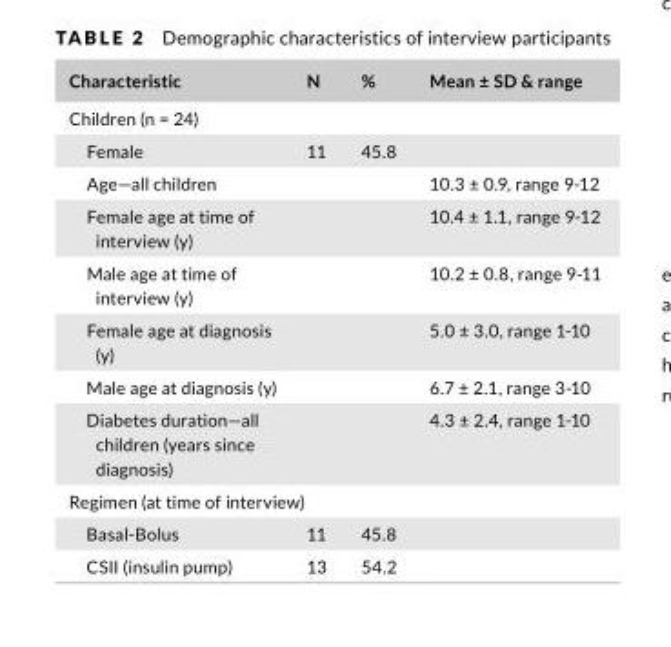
<table><thead><tr><td>Characteristic</td><td>N</td><td>%</td><td>Mean ± SD &amp; range</td></tr></thead><tbody><tr><td colspan="4">Children (n = 24)</td></tr><tr><td>Female</td><td>11</td><td>45.8</td><td></td></tr><tr><td>Age—all children</td><td></td><td></td><td>10.3 ± 0.9, range 9- 12</td></tr><tr><td>Female age at time of interview (y)</td><td></td><td></td><td>10.4 ± 1.1, range 9- 12</td></tr><tr><td>Male age at time of interview (y)</td><td></td><td></td><td>10.2 ± 0.8, range 9- 11</td></tr><tr><td>Female age at diagnosis (y)</td><td></td><td></td><td>5.0 ± 3.0, range 1- 10</td></tr><tr><td>Male age at diagnosis (y)</td><td></td><td></td><td>6.7 ± 2.1, range 3- 10</td></tr><tr><td>Diabetes duration—all children (years since diagnosis)</td><td></td><td></td><td>4.3 ± 2.4, range 1- 10</td></tr><tr><td colspan="4">Regimen (at time of interview)</td></tr><tr><td>Basal- Bolus</td><td>11</td><td>45.8</td><td></td></tr><tr><td>CSII (insulin pump)</td><td>13</td><td>54.2</td><td></td></tr></tbody></table>